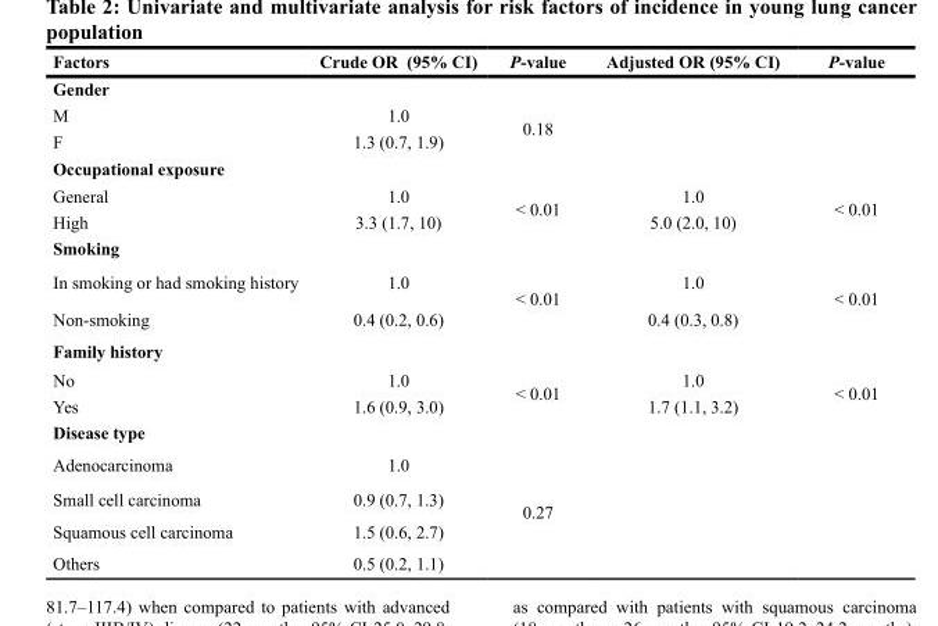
<table><thead><tr><td>Factors</td><td>Crude OR (95% CI)</td><td>P-value</td><td>Adjusted OR (95% CI)</td><td>P-value</td></tr></thead><tbody><tr><td colspan="5">Gender</td></tr><tr><td>M</td><td>1.0</td><td rowspan="2">0.18</td><td></td><td></td></tr><tr><td>F</td><td>1.3 (0.7, 1.9)</td><td></td><td></td></tr><tr><td colspan="5">Occupational exposure</td></tr><tr><td>General</td><td>1.0</td><td rowspan="2">&lt; 0.01</td><td>1.0</td><td rowspan="2">&lt; 0.01</td></tr><tr><td>High</td><td>3.3 (1.7, 10)</td><td>5.0 (2.0, 10)</td></tr><tr><td colspan="5">Smoking</td></tr><tr><td>In smoking or had smoking history</td><td>1.0</td><td rowspan="2">&lt; 0.01</td><td>1.0</td><td rowspan="2">&lt; 0.01</td></tr><tr><td>Non-smoking</td><td>0.4 (0.2, 0.6)</td><td>0.4 (0.3, 0.8)</td></tr><tr><td colspan="5">Family history</td></tr><tr><td>No</td><td>1.0</td><td rowspan="2">&lt; 0.01</td><td>1.0</td><td rowspan="2">&lt; 0.01</td></tr><tr><td>Yes</td><td>1.6 (0.9, 3.0)</td><td>1.7 (1.1, 3.2)</td></tr><tr><td colspan="5">Disease type</td></tr><tr><td>Adenocarcinoma</td><td>1.0</td><td rowspan="4">0.27</td><td></td><td></td></tr><tr><td>Small cell carcinoma</td><td>0.9 (0.7, 1.3)</td><td></td><td></td></tr><tr><td>Squamous cell carcinoma</td><td>1.5 (0.6, 2.7)</td><td></td><td></td></tr><tr><td>Others</td><td>0.5 (0.2, 1.1)</td><td></td><td></td></tr></tbody></table>